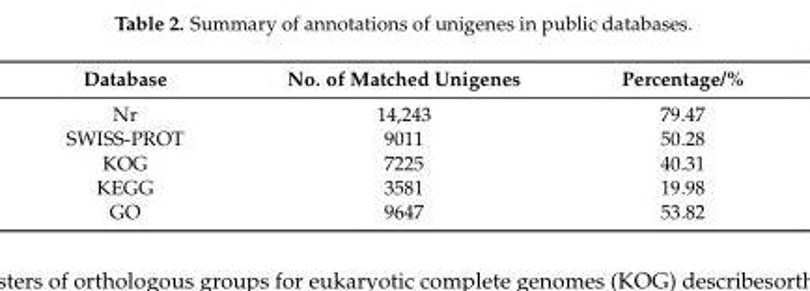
<table><thead><tr><td>Database</td><td>No. of Matched Unigenes</td><td>Percentage/%</td></tr></thead><tbody><tr><td>Nr</td><td>14,243</td><td>79.47</td></tr><tr><td>SWISS-PROT</td><td>9011</td><td>50.28</td></tr><tr><td>KOG</td><td>7225</td><td>40.31</td></tr><tr><td>KEGG</td><td>3581</td><td>19.98</td></tr><tr><td>GO</td><td>9647</td><td>53.82</td></tr></tbody></table>